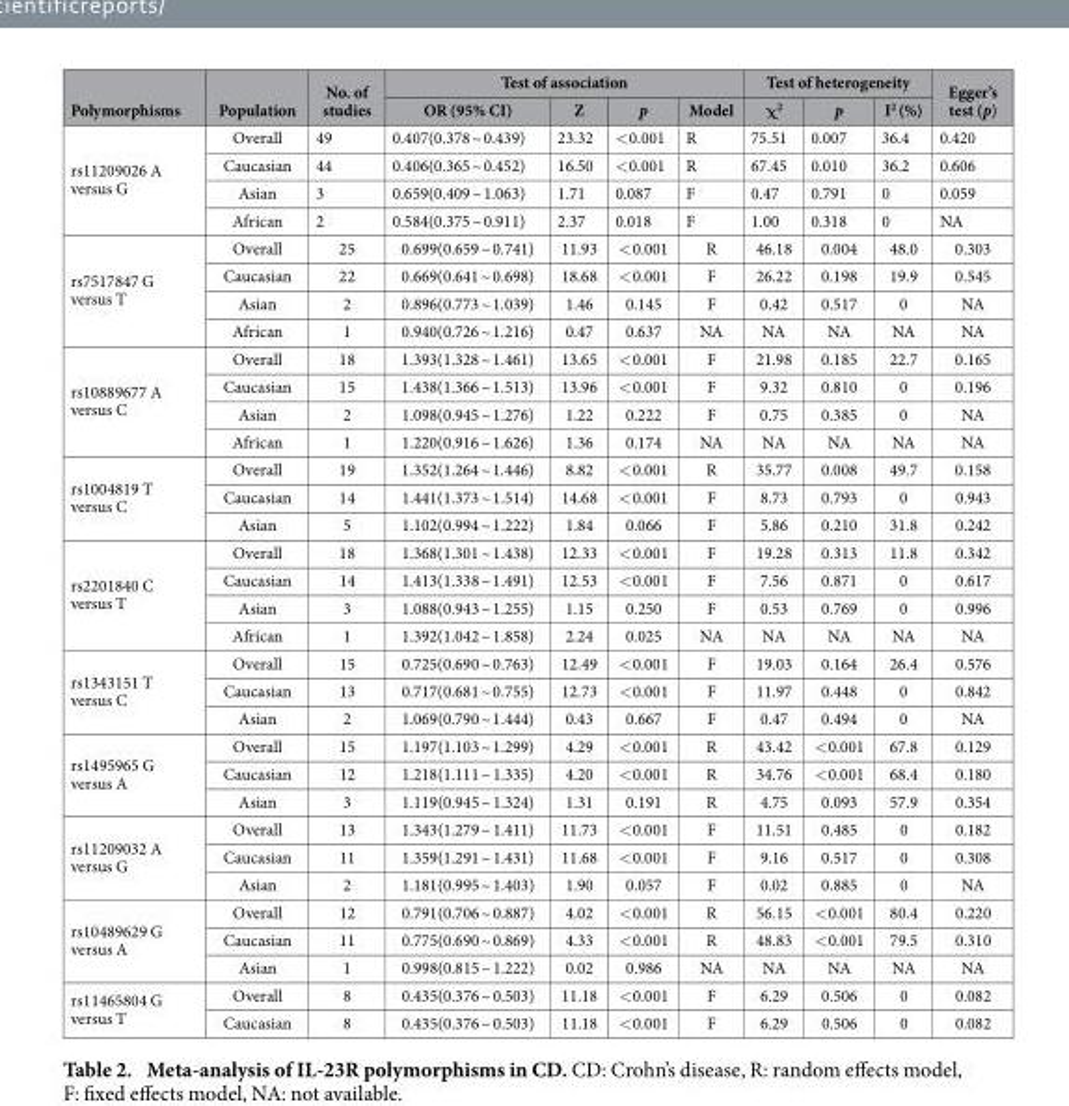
<table><thead><tr><td rowspan="2">Polymorphisms</td><td rowspan="2">Population</td><td rowspan="2">No. of studies</td><td colspan="4">Test of association</td><td colspan="3">Test of heterogeneity</td><td rowspan="2">Egger’s test (p)</td></tr><tr><td>OR (95% CI)</td><td>Z</td><td>p</td><td>Model</td><td>χ<sup>2</sup></td><td>p</td><td>I<sup>2</sup> (%)</td></tr></thead><tbody><tr><td rowspan="4">rs11209026 A versus G</td><td>Overall</td><td>49</td><td>0.407(0.378 ~ 0.439)</td><td>23.32</td><td>&lt; 0.001</td><td>R</td><td>75.51</td><td>0.007</td><td>36.4</td><td>0.420</td></tr><tr><td>Caucasian</td><td>44</td><td>0.406(0.365 ~ 0.452)</td><td>16.50</td><td>&lt; 0.001</td><td>R</td><td>67.45</td><td>0.010</td><td>36.2</td><td>0.606</td></tr><tr><td>Asian</td><td>3</td><td>0.659(0.409 ~ 1.063)</td><td>1.71</td><td>0.087</td><td>F</td><td>0.47</td><td>0.791</td><td>0</td><td>0.059</td></tr><tr><td>African</td><td>2</td><td>0.584(0.375 ~ 0.911)</td><td>2.37</td><td>0.018</td><td>F</td><td>1.00</td><td>0.318</td><td>0</td><td>NA</td></tr><tr><td rowspan="4">rs7517847 G versus T</td><td>Overall</td><td>25</td><td>0.699(0.659 ~ 0.741)</td><td>11.93</td><td>&lt; 0.001</td><td>R</td><td>46.18</td><td>0.004</td><td>48.0</td><td>0.303</td></tr><tr><td>Caucasian</td><td>22</td><td>0.669(0.641 ~ 0.698)</td><td>18.68</td><td>&lt; 0.001</td><td>F</td><td>26.22</td><td>0.198</td><td>19.9</td><td>0.545</td></tr><tr><td>Asian</td><td>2</td><td>0.896(0.773 ~ 1.039)</td><td>1.46</td><td>0.145</td><td>F</td><td>0.42</td><td>0.517</td><td>0</td><td>NA</td></tr><tr><td>African</td><td>1</td><td>0.940(0.726 ~ 1.216)</td><td>0.47</td><td>0.637</td><td>NA</td><td>NA</td><td>NA</td><td>NA</td><td>NA</td></tr><tr><td rowspan="4">rs10889677 A versus C</td><td>Overall</td><td>18</td><td>1.393(1.328 ~ 1.461)</td><td>13.65</td><td>&lt; 0.001</td><td>F</td><td>21.98</td><td>0.185</td><td>22.7</td><td>0.165</td></tr><tr><td>Caucasian</td><td>15</td><td>1.438(1.366 ~ 1.513)</td><td>13.96</td><td>&lt; 0.001</td><td>F</td><td>9.32</td><td>0.810</td><td>0</td><td>0.196</td></tr><tr><td>Asian</td><td>2</td><td>1.098(0.945 ~ 1.276)</td><td>1.22</td><td>0.222</td><td>F</td><td>0.75</td><td>0.385</td><td>0</td><td>NA</td></tr><tr><td>African</td><td>1</td><td>1.220(0.916 ~ 1.626)</td><td>1.36</td><td>0.174</td><td>NA</td><td>NA</td><td>NA</td><td>NA</td><td>NA</td></tr><tr><td rowspan="3">rs1004819 T versus C</td><td>Overall</td><td>19</td><td>1.352(1.264 ~ 1.446)</td><td>8.82</td><td>&lt; 0.001</td><td>R</td><td>35.77</td><td>0.008</td><td>49.7</td><td>0.158</td></tr><tr><td>Caucasian</td><td>14</td><td>1.441(1.373 ~ 1.514)</td><td>14.68</td><td>&lt; 0.001</td><td>F</td><td>8.73</td><td>0.793</td><td>0</td><td>0.943</td></tr><tr><td>Asian</td><td>5</td><td>1.102(0.994 ~ 1.222)</td><td>1.84</td><td>0.066</td><td>F</td><td>5.86</td><td>0.210</td><td>31.8</td><td>0.242</td></tr><tr><td rowspan="4">rs2201840 C versus T</td><td>Overall</td><td>18</td><td>1.368(1.301 ~ 1.438)</td><td>12.33</td><td>&lt; 0.001</td><td>F</td><td>19.28</td><td>0.313</td><td>11.8</td><td>0.342</td></tr><tr><td>Caucasian</td><td>14</td><td>1.413(1.338 ~ 1.491)</td><td>12.53</td><td>&lt; 0.001</td><td>F</td><td>7.56</td><td>0.871</td><td>0</td><td>0.617</td></tr><tr><td>Asian</td><td>3</td><td>1.088(0.943 ~ 1.255)</td><td>1.15</td><td>0.250</td><td>F</td><td>0.53</td><td>0.769</td><td>0</td><td>0.996</td></tr><tr><td>African</td><td>1</td><td>1.392(1.042 ~ 1.858)</td><td>2.24</td><td>0.025</td><td>NA</td><td>NA</td><td>NA</td><td>NA</td><td>NA</td></tr><tr><td rowspan="3">rs1343151 T versus C</td><td>Overall</td><td>15</td><td>0.725(0.690 ~ 0.763)</td><td>12.49</td><td>&lt; 0.001</td><td>F</td><td>19.03</td><td>0.164</td><td>26.4</td><td>0.576</td></tr><tr><td>Caucasian</td><td>13</td><td>0.717(0.681 ~ 0.755)</td><td>12.73</td><td>&lt; 0.001</td><td>F</td><td>11.97</td><td>0.448</td><td>0</td><td>0.842</td></tr><tr><td>Asian</td><td>2</td><td>1.069(0.790 ~ 1.444)</td><td>0.43</td><td>0.667</td><td>F</td><td>0.47</td><td>0.494</td><td>0</td><td>NA</td></tr><tr><td rowspan="3">rs1495965 G versus A</td><td>Overall</td><td>15</td><td>1.197(1.103 ~ 1.299)</td><td>4.29</td><td>&lt; 0.001</td><td>R</td><td>43.42</td><td>&lt; 0.001</td><td>67.8</td><td>0.129</td></tr><tr><td>Caucasian</td><td>12</td><td>1.218(1.111 ~ 1.335)</td><td>4.20</td><td>&lt; 0.001</td><td>R</td><td>34.76</td><td>&lt; 0.001</td><td>68.4</td><td>0.180</td></tr><tr><td>Asian</td><td>3</td><td>1.119(0.945 ~ 1.324)</td><td>1.31</td><td>0.191</td><td>R</td><td>4.75</td><td>0.093</td><td>57.9</td><td>0.354</td></tr><tr><td rowspan="3">rs11209032 A versus G</td><td>Overall</td><td>13</td><td>1.343(1.279 ~ 1.411)</td><td>11.73</td><td>&lt; 0.001</td><td>F</td><td>11.51</td><td>0.485</td><td>0</td><td>0.182</td></tr><tr><td>Caucasian</td><td>11</td><td>1.359(1.291 ~ 1.431)</td><td>11.68</td><td>&lt; 0.001</td><td>F</td><td>9.16</td><td>0.517</td><td>0</td><td>0.308</td></tr><tr><td>Asian</td><td>2</td><td>1.181(0.995 ~ 1.403)</td><td>1.90</td><td>0.057</td><td>F</td><td>0.02</td><td>0.885</td><td>0</td><td>NA</td></tr><tr><td rowspan="3">rs10489629 G versus A</td><td>Overall</td><td>12</td><td>0.791(0.706 ~ 0.887)</td><td>4.02</td><td>&lt; 0.001</td><td>R</td><td>56.15</td><td>&lt; 0.001</td><td>80.4</td><td>0.220</td></tr><tr><td>Caucasian</td><td>11</td><td>0.775(0.690 ~ 0.869)</td><td>4.33</td><td>&lt; 0.001</td><td>R</td><td>48.83</td><td>&lt; 0.001</td><td>79.5</td><td>0.310</td></tr><tr><td>Asian</td><td>1</td><td>0.998(0.815 ~ 1.222)</td><td>0.02</td><td>0.986</td><td>NA</td><td>NA</td><td>NA</td><td>NA</td><td>NA</td></tr><tr><td rowspan="2">rs11465804 G versus T</td><td>Overall</td><td>8</td><td>0.435(0.376 ~ 0.503)</td><td>11.18</td><td>&lt; 0.001</td><td>F</td><td>6.29</td><td>0.506</td><td>0</td><td>0.082</td></tr><tr><td>Caucasian</td><td>8</td><td>0.435(0.376 ~ 0.503)</td><td>11.18</td><td>&lt; 0.001</td><td>F</td><td>6.29</td><td>0.506</td><td>0</td><td>0.082</td></tr></tbody></table>